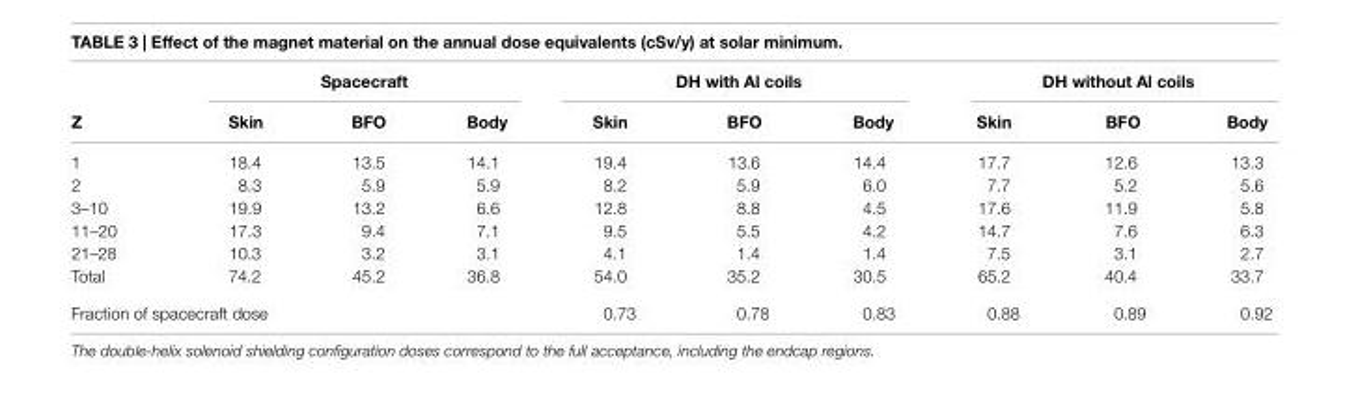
<table><thead><tr><td rowspan="2">Z</td><td colspan="3">spacecraft</td><td colspan="3">Dh with al coils</td><td colspan="3">Dh without al coils</td></tr><tr><td>skin</td><td>BFO</td><td>Body</td><td>skin</td><td>BFO</td><td>Body</td><td>skin</td><td>BFO</td><td>Body</td></tr></thead><tbody><tr><td>1</td><td>18.4</td><td>13.5</td><td>14.1</td><td>19.4</td><td>13.6</td><td>14.4</td><td>17.7</td><td>12.6</td><td>13.3</td></tr><tr><td>2</td><td>8.3</td><td>5.9</td><td>5.9</td><td>8.2</td><td>5.9</td><td>6.0</td><td>7.7</td><td>5.2</td><td>5.6</td></tr><tr><td>3–10</td><td>19.9</td><td>13.2</td><td>6.6</td><td>12.8</td><td>8.8</td><td>4.5</td><td>17.6</td><td>11.9</td><td>5.8</td></tr><tr><td>11–20</td><td>17.3</td><td>9.4</td><td>7.1</td><td>9.5</td><td>5.5</td><td>4.2</td><td>14.7</td><td>7.6</td><td>6.3</td></tr><tr><td>21–28</td><td>10.3</td><td>3.2</td><td>3.1</td><td>4.1</td><td>1.4</td><td>1.4</td><td>7.5</td><td>3.1</td><td>2.7</td></tr><tr><td>Total</td><td>74.2</td><td>45.2</td><td>36.8</td><td>54.0</td><td>35.2</td><td>30.5</td><td>65.2</td><td>40.4</td><td>33.7</td></tr><tr><td colspan="4">Fraction of spacecraft dose</td><td>0.73</td><td>0.78</td><td>0.83</td><td>0.88</td><td>0.89</td><td>0.92</td></tr></tbody></table>